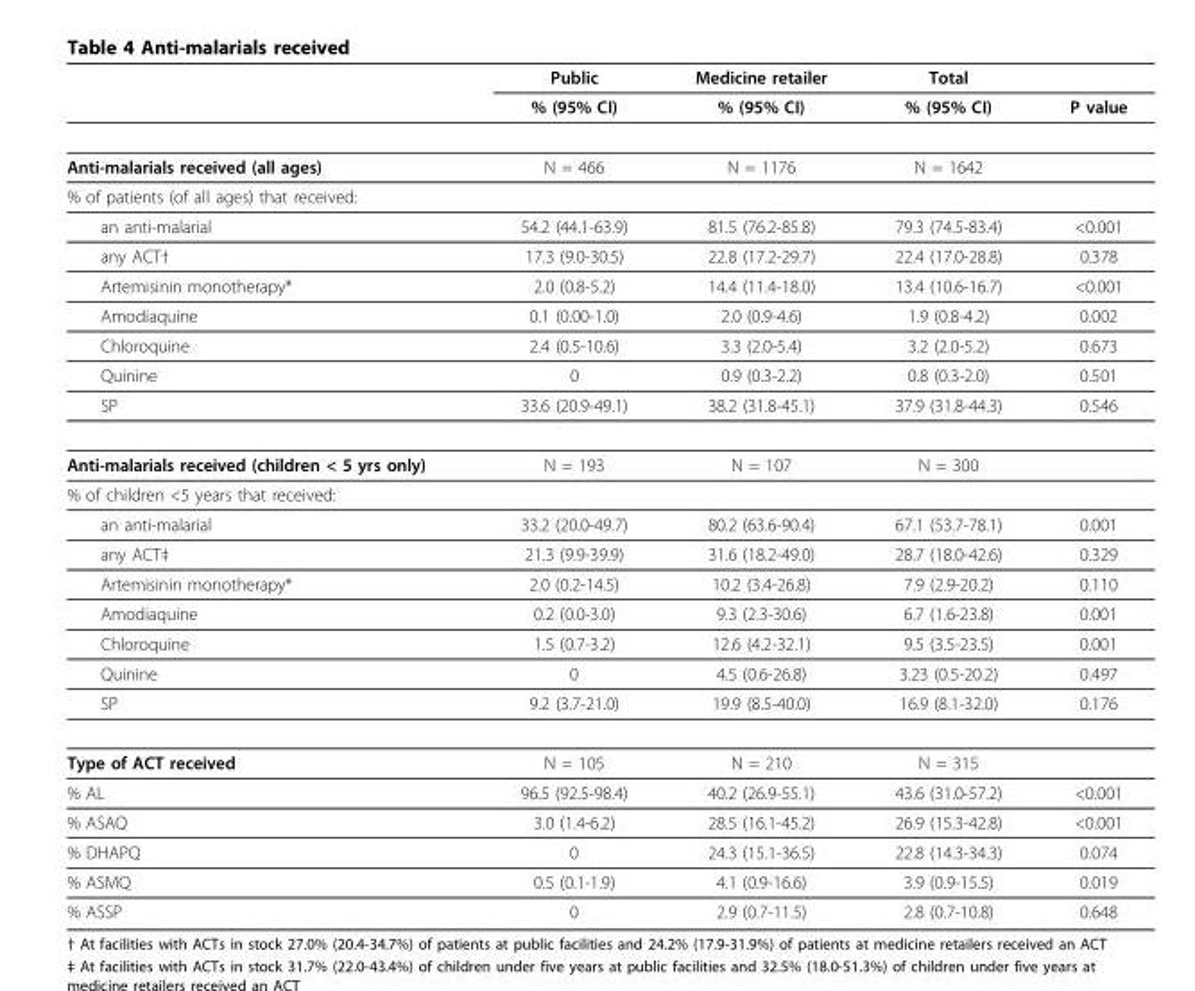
<table><thead><tr><td rowspan="2"></td><td rowspan="2">Public % (95% CI)</td><td rowspan="2">Medicine retailer % (95% CI)</td><td rowspan="2">Total % (95% CI)</td><td rowspan="2">P value</td></tr><tr></tr></thead><tbody><tr><td>Anti-malarials received (all ages)</td><td>N = 466</td><td>N = 1176</td><td>N = 1642</td><td></td></tr><tr><td colspan="5">% of patients (of all ages) that received:</td></tr><tr><td>an anti-malarial</td><td>54.2 (44.1-63.9)</td><td>81.5 (76.2-85.8)</td><td>79.3 (74.5-83.4)</td><td>&lt;0.001</td></tr><tr><td>any ACT†</td><td>17.3 (9.0-30.5)</td><td>22.8 (17.2-29.7)</td><td>22.4 (17.0-28.8)</td><td>0.378</td></tr><tr><td>Artemisinin monotherapy*</td><td>2.0 (0.8-5.2)</td><td>14.4 (11.4-18.0)</td><td>13.4 (10.6-16.7)</td><td>&lt;0.001</td></tr><tr><td>Amodiaquine</td><td>0.1 (0.00-1.0)</td><td>2.0 (0.9-4.6)</td><td>1.9 (0.8-4.2)</td><td>0.002</td></tr><tr><td>Chloroquine</td><td>2.4 (0.5-10.6)</td><td>3.3 (2.0-5.4)</td><td>3.2 (2.0-5.2)</td><td>0.673</td></tr><tr><td>Quinine</td><td>0</td><td>0.9 (0.3-2.2)</td><td>0.8 (0.3-2.0)</td><td>0.501</td></tr><tr><td>SP</td><td>33.6 (20.9-49.1)</td><td>38.2 (31.8-45.1)</td><td>37.9 (31.8-44.3)</td><td>0.546</td></tr><tr><td>Anti-malarials received (children &lt; 5 yrs only)</td><td>N = 193</td><td>N = 107</td><td>N = 300</td><td></td></tr><tr><td colspan="5">% of children &lt;5 years that received:</td></tr><tr><td>an anti-malarial</td><td>33.2 (20.0-49.7)</td><td>80.2 (63.6-90.4)</td><td>67.1 (53.7-78.1)</td><td>0.001</td></tr><tr><td>any ACT‡</td><td>21.3 (9.9-39.9)</td><td>31.6 (18.2-49.0)</td><td>28.7 (18.0-42.6)</td><td>0.329</td></tr><tr><td>Artemisinin monotherapy*</td><td>2.0 (0.2-14.5)</td><td>10.2 (3.4-26.8)</td><td>7.9 (2.9-20.2)</td><td>0.110</td></tr><tr><td>Amodiaquine</td><td>0.2 (0.0-3.0)</td><td>9.3 (2.3-30.6)</td><td>6.7 (1.6-23.8)</td><td>0.001</td></tr><tr><td>Chloroquine</td><td>1.5 (0.7-3.2)</td><td>12.6 (4.2-32.1)</td><td>9.5 (3.5-23.5)</td><td>0.001</td></tr><tr><td>Quinine</td><td>0</td><td>4.5 (0.6-26.8)</td><td>3.23 (0.5-20.2)</td><td>0.497</td></tr><tr><td>SP</td><td>9.2 (3.7-21.0)</td><td>19.9 (8.5-40.0)</td><td>16.9 (8.1-32.0)</td><td>0.176</td></tr><tr><td>Type of ACT received</td><td>N = 105</td><td>N = 210</td><td>N = 315</td><td></td></tr><tr><td>% AL</td><td>96.5 (92.5-98.4)</td><td>40.2 (26.9-55.1)</td><td>43.6 (31.0-57.2)</td><td>&lt;0.001</td></tr><tr><td>% ASAQ</td><td>3.0 (1.4-6.2)</td><td>28.5 (16.1-45.2)</td><td>26.9 (15.3-42.8)</td><td>&lt;0.001</td></tr><tr><td>% DHAPQ</td><td>0</td><td>24.3 (15.1-36.5)</td><td>22.8 (14.3-34.3)</td><td>0.074</td></tr><tr><td>% ASMQ</td><td>0.5 (0.1-1.9)</td><td>4.1 (0.9-16.6)</td><td>3.9 (0.9-15.5)</td><td>0.019</td></tr><tr><td>% ASSP</td><td>0</td><td>2.9 (0.7-11.5)</td><td>2.8 (0.7-10.8)</td><td>0.648</td></tr></tbody></table>